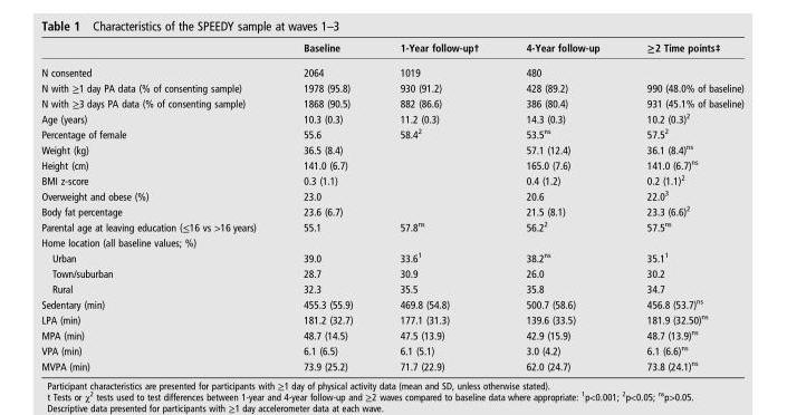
<table><thead><tr><td></td><td>Baseline</td><td>1-Year follow-up†</td><td>4-Year follow-up</td><td>≥2 Time points‡</td></tr></thead><tbody><tr><td>N consented</td><td>2064</td><td>1019</td><td>480</td><td></td></tr><tr><td>N with ≥1 day PA data (% of consenting sample)</td><td>1978 (95.8)</td><td>930 (91.2)</td><td>428 (89.2)</td><td>990 (48.0% of baseline)</td></tr><tr><td>N with ≥3 days PA data (% of consenting sample)</td><td>1868 (90.5)</td><td>882 (86.6)</td><td>386 (80.4)</td><td>931 (45.1% of baseline)</td></tr><tr><td>Age (years)</td><td>10.3 (0.3)</td><td>11.2 (0.3)</td><td>14.3 (0.3)</td><td>10.2 (0.3)<sup>2</sup></td></tr><tr><td>Percentage of female</td><td>55.6</td><td>58.4<sup>2</sup></td><td>53.5<sup>ns</sup></td><td>57.5<sup>2</sup></td></tr><tr><td>Weight (kg)</td><td>36.5 (8.4)</td><td></td><td>57.1 (12.4)</td><td>36.1 (8.4)<sup>ns</sup></td></tr><tr><td>Height (cm)</td><td>141.0 (6.7)</td><td></td><td>165.0 (7.6)</td><td>141.0 (6.7)<sup>ns</sup></td></tr><tr><td>BMI z-score</td><td>0.3 (1.1)</td><td></td><td>0.4 (1.2)</td><td>0.2 (1.1)<sup>2</sup></td></tr><tr><td>Overweight and obese (%)</td><td>23.0</td><td></td><td>20.6</td><td>22.0<sup>3</sup></td></tr><tr><td>Body fat percentage</td><td>23.6 (6.7)</td><td></td><td>21.5 (8.1)</td><td>23.3 (6.6)<sup>2</sup></td></tr><tr><td>Parental age at leaving education (≤16 vs &gt;16 years)</td><td>55.1</td><td>57.8<sup>ns</sup></td><td>56.2<sup>2</sup></td><td>57.5<sup>ns</sup></td></tr><tr><td colspan="5">Home location (all baseline values; %)</td></tr><tr><td>Urban</td><td>39.0</td><td>33.6<sup>1</sup></td><td>38.2<sup>ns</sup></td><td>35.1<sup>1</sup></td></tr><tr><td>Town/suburban</td><td>28.7</td><td>30.9</td><td>26.0</td><td>30.2</td></tr><tr><td>Rural</td><td>32.3</td><td>35.5</td><td>35.8</td><td>34.7</td></tr><tr><td>Sedentary (min)</td><td>455.3 (55.9)</td><td>469.8 (54.8)</td><td>500.7 (58.6)</td><td>456.8 (53.7)<sup>ns</sup></td></tr><tr><td>LPA (min)</td><td>181.2 (32.7)</td><td>177.1 (31.3)</td><td>139.6 (33.5)</td><td>181.9 (32.50)<sup>ns</sup></td></tr><tr><td>MPA (min)</td><td>48.7 (14.5)</td><td>47.5 (13.9)</td><td>42.9 (15.9)</td><td>48.7 (13.9)<sup>ns</sup></td></tr><tr><td>VPA (min)</td><td>6.1 (6.5)</td><td>6.1 (5.1)</td><td>3.0 (4.2)</td><td>6.1 (6.6)<sup>ns</sup></td></tr><tr><td>MVPA (min)</td><td>73.9 (25.2)</td><td>71.7 (22.9)</td><td>62.0 (24.7)</td><td>73.8 (24.1)<sup>ns</sup></td></tr></tbody></table>